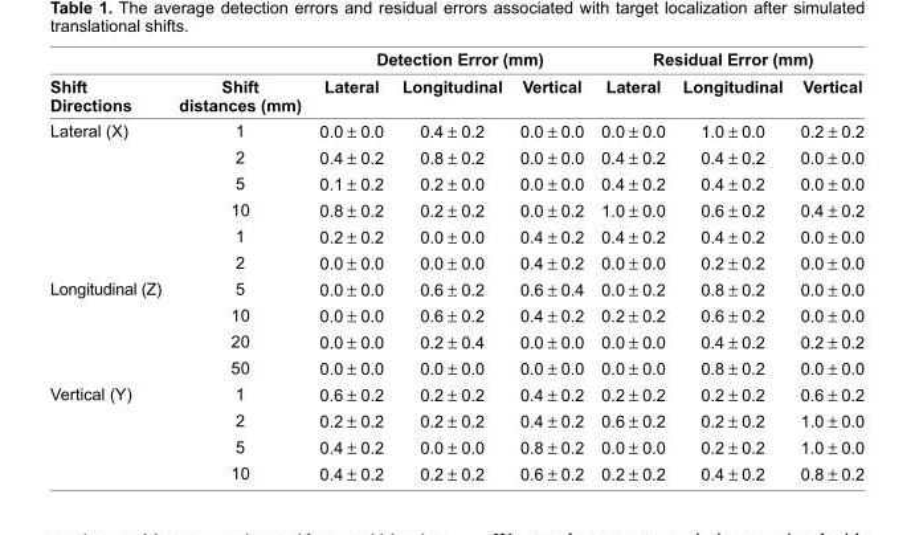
<table><thead><tr><td rowspan="2">Shift Directions</td><td rowspan="2">Shift distances (mm)</td><td colspan="3">Detection Error (mm)</td><td colspan="3">Residual Error (mm)</td></tr><tr><td>Lateral</td><td>Longitudinal</td><td>Vertical</td><td>Lateral</td><td>Longitudinal</td><td>Vertical</td></tr></thead><tbody><tr><td rowspan="6">Lateral (X)</td><td>1</td><td>0.0 ± 0.0</td><td>0.4 ± 0.2</td><td>0.0 ± 0.0</td><td>0.0 ± 0.0</td><td>1.0 ± 0.0</td><td>0.2 ± 0.2</td></tr><tr><td>2</td><td>0.4 ± 0.2</td><td>0.8 ± 0.2</td><td>0.0 ± 0.0</td><td>0.4 ± 0.2</td><td>0.4 ± 0.2</td><td>0.0 ± 0.0</td></tr><tr><td>5</td><td>0.1 ± 0.2</td><td>0.2 ± 0.0</td><td>0.0 ± 0.0</td><td>0.4 ± 0.2</td><td>0.4 ± 0.2</td><td>0.0 ± 0.0</td></tr><tr><td>10</td><td>0.8 ± 0.2</td><td>0.2 ± 0.2</td><td>0.0 ± 0.2</td><td>1.0 ± 0.0</td><td>0.6 ± 0.2</td><td>0.4 ± 0.2</td></tr><tr><td>1</td><td>0.2 ± 0.2</td><td>0.0 ± 0.0</td><td>0.4 ± 0.2</td><td>0.4 ± 0.2</td><td>0.4 ± 0.2</td><td>0.0 ± 0.0</td></tr><tr><td>2</td><td>0.0 ± 0.0</td><td>0.0 ± 0.0</td><td>0.4 ± 0.2</td><td>0.0 ± 0.0</td><td>0.2 ± 0.2</td><td>0.0 ± 0.0</td></tr><tr><td rowspan="4">Longitudinal (Z)</td><td>5</td><td>0.0 ± 0.0</td><td>0.6 ± 0.2</td><td>0.6 ± 0.4</td><td>0.0 ± 0.2</td><td>0.8 ± 0.2</td><td>0.0 ± 0.0</td></tr><tr><td>10</td><td>0.0 ± 0.0</td><td>0.6 ± 0.2</td><td>0.4 ± 0.2</td><td>0.2 ± 0.2</td><td>0.6 ± 0.2</td><td>0.0 ± 0.0</td></tr><tr><td>20</td><td>0.0 ± 0.0</td><td>0.2 ± 0.4</td><td>0.0 ± 0.0</td><td>0.0 ± 0.0</td><td>0.4 ± 0.2</td><td>0.2 ± 0.2</td></tr><tr><td>50</td><td>0.0 ± 0.0</td><td>0.0 ± 0.0</td><td>0.0 ± 0.0</td><td>0.0 ± 0.0</td><td>0.8 ± 0.2</td><td>0.0 ± 0.0</td></tr><tr><td rowspan="4">Vertical (Y)</td><td>1</td><td>0.6 ± 0.2</td><td>0.2 ± 0.2</td><td>0.4 ± 0.2</td><td>0.2 ± 0.2</td><td>0.2 ± 0.2</td><td>0.6 ± 0.2</td></tr><tr><td>2</td><td>0.2 ± 0.2</td><td>0.2 ± 0.2</td><td>0.4 ± 0.2</td><td>0.6 ± 0.2</td><td>0.2 ± 0.2</td><td>1.0 ± 0.0</td></tr><tr><td>5</td><td>0.4 ± 0.2</td><td>0.0 ± 0.0</td><td>0.8 ± 0.2</td><td>0.0 ± 0.0</td><td>0.2 ± 0.2</td><td>1.0 ± 0.0</td></tr><tr><td>10</td><td>0.4 ± 0.2</td><td>0.2 ± 0.2</td><td>0.6 ± 0.2</td><td>0.2 ± 0.2</td><td>0.4 ± 0.2</td><td>0.8 ± 0.2</td></tr></tbody></table>